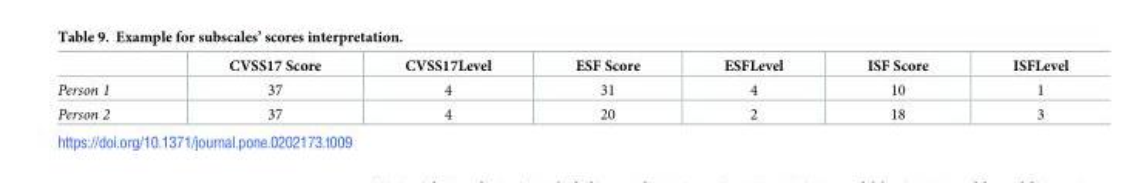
<table><thead><tr><td></td><td>CVSS17 Score</td><td>CVSS17Level</td><td>ESF Score</td><td>ESFLevel</td><td>ISF Score</td><td>ISFLevel</td></tr></thead><tbody><tr><td>Person 1</td><td>37</td><td>4</td><td>31</td><td>4</td><td>10</td><td>1</td></tr><tr><td>Person 2</td><td>37</td><td>4</td><td>20</td><td>2</td><td>18</td><td>3</td></tr></tbody></table>